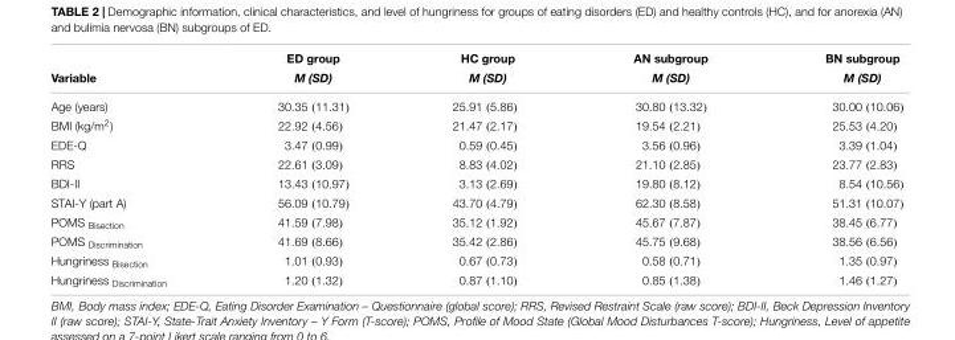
<table><thead><tr><td rowspan="2">Variable</td><td rowspan="2">ED group M (SD)</td><td rowspan="2">HC group M (SD)</td><td rowspan="2">AN subgroup M (SD)</td><td rowspan="2">BN subgroup M (SD)</td></tr><tr></tr></thead><tbody><tr><td>Age (years)</td><td>30.35 (11.31)</td><td>25.91 (5.86)</td><td>30.80 (13.32)</td><td>30.00 (10.06)</td></tr><tr><td>BMI (kg/m<sup>2</sup>)</td><td>22.92 (4.56)</td><td>21.47 (2.17)</td><td>19.54 (2.21)</td><td>25.53 (4.20)</td></tr><tr><td>EDE-Q</td><td>3.47 (0.99)</td><td>0.59 (0.45)</td><td>3.56 (0.96)</td><td>3.39 (1.04)</td></tr><tr><td>RRS</td><td>22.61 (3.09)</td><td>8.83 (4.02)</td><td>21.10 (2.85)</td><td>23.77 (2.83)</td></tr><tr><td>BDI-II</td><td>13.43 (10.97)</td><td>3.13 (2.69)</td><td>19.80 (8.12)</td><td>8.54 (10.56)</td></tr><tr><td>STAI-Y (part A)</td><td>56.09 (10.79)</td><td>43.70 (4.79)</td><td>62.30 (8.58)</td><td>51.31 (10.07)</td></tr><tr><td>POMS <sub>Bisection</sub></td><td>41.59 (7.98)</td><td>35.12 (1.92)</td><td>45.67 (7.87)</td><td>38.45 (6.77)</td></tr><tr><td>POMS <sub>Discrimination</sub></td><td>41.69 (8.66)</td><td>35.42 (2.86)</td><td>45.75 (9.68)</td><td>38.56 (6.56)</td></tr><tr><td>Hungriness <sub>Bisection</sub></td><td>1.01 (0.93)</td><td>0.67 (0.73)</td><td>0.58 (0.71)</td><td>1.35 (0.97)</td></tr><tr><td>Hungriness <sub>Discrimination</sub></td><td>1.20 (1.32)</td><td>0.87 (1.10)</td><td>0.85 (1.38)</td><td>1.46 (1.27)</td></tr></tbody></table>